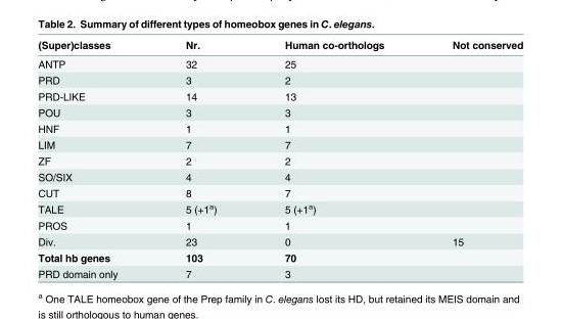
<table><thead><tr><td>(Super)classes</td><td>Nr.</td><td>Human co-orthologs</td><td>Not conserved</td></tr></thead><tbody><tr><td>ANTP</td><td>32</td><td>25</td><td></td></tr><tr><td>PRD</td><td>3</td><td>2</td><td></td></tr><tr><td>PRD-LIKE</td><td>14</td><td>13</td><td></td></tr><tr><td>POU</td><td>3</td><td>3</td><td></td></tr><tr><td>HNF</td><td>1</td><td>1</td><td></td></tr><tr><td>LIM</td><td>7</td><td>7</td><td></td></tr><tr><td>ZF</td><td>2</td><td>2</td><td></td></tr><tr><td>SO/SIX</td><td>4</td><td>4</td><td></td></tr><tr><td>CUT</td><td>8</td><td>7</td><td></td></tr><tr><td>TALE</td><td>5 (+1<sup>a</sup>)</td><td>5 (+1<sup>a</sup>)</td><td></td></tr><tr><td>PROS</td><td>1</td><td>1</td><td></td></tr><tr><td>Div.</td><td>23</td><td>0</td><td>15</td></tr><tr><td>Total hb genes</td><td>103</td><td>70</td><td></td></tr><tr><td>PRD domain only</td><td>7</td><td>3</td><td></td></tr></tbody></table>